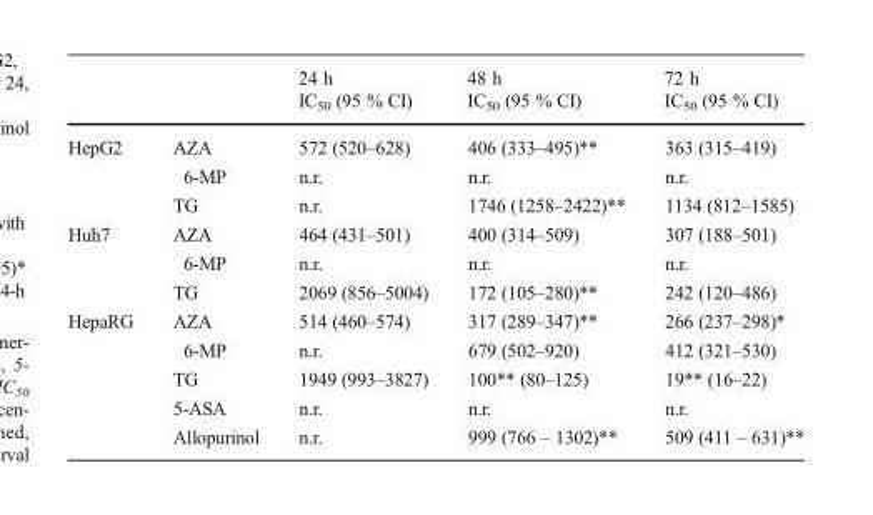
<table><thead><tr><td rowspan="2"></td><td rowspan="2"></td><td rowspan="2">24 h IC<sub>50</sub> (95 % CI)</td><td rowspan="2">48 h IC<sub>50</sub> (95 % CI)</td><td rowspan="2">72 h IC<sub>50</sub> (95 % CI)</td></tr><tr></tr></thead><tbody><tr><td rowspan="3">HepG2</td><td>AZA</td><td>572 (520–628)</td><td>406 (333–495)**</td><td>363 (315–419)</td></tr><tr><td>6-MP</td><td>n.r.</td><td>n.r.</td><td>n.r.</td></tr><tr><td>TG</td><td>n.r.</td><td>1746 (1258–2422)**</td><td>1134 (812–1585)</td></tr><tr><td rowspan="3">Huh7</td><td>AZA</td><td>464 (431–501)</td><td>400 (314–509)</td><td>307 (188–501)</td></tr><tr><td>6-MP</td><td>n.r.</td><td>n.r.</td><td>n.r.</td></tr><tr><td>TG</td><td>2069 (856–5004)</td><td>172 (105–280)**</td><td>242 (120–486)</td></tr><tr><td rowspan="5">HepaRG</td><td>AZA</td><td>514 (460–574)</td><td>317 (289–347)**</td><td>266 (237–298)*</td></tr><tr><td>6-MP</td><td>n.r.</td><td>679 (502–920)</td><td>412 (321–530)</td></tr><tr><td>TG</td><td>1949 (993–3827)</td><td>100** (80–125)</td><td>19** (16–22)</td></tr><tr><td>5-ASA</td><td>n.r.</td><td>n.r.</td><td>n.r.</td></tr><tr><td>Allopurinol</td><td>n.r.</td><td>999 (766 – 1302)**</td><td>509 (411 – 631)**</td></tr></tbody></table>